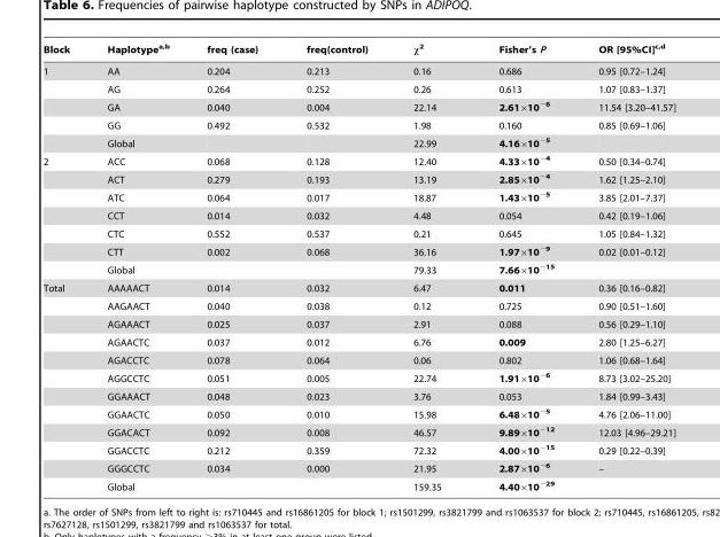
<table><thead><tr><td>Block</td><td>Haplotype<sup>a,b</sup></td><td>freq (case)</td><td>freq(control)</td><td>χ<sup>2</sup></td><td>Fisher’s P</td><td>OR [95%CI]<sup>c,d</sup></td></tr></thead><tbody><tr><td rowspan="5">1</td><td>AA</td><td>0.204</td><td>0.213</td><td>0.16</td><td>0.686</td><td>0.95 [0.72–1.24]</td></tr><tr><td>AG</td><td>0.264</td><td>0.252</td><td>0.26</td><td>0.613</td><td>1.07 [0.83–1.37]</td></tr><tr><td>GA</td><td>0.040</td><td>0.004</td><td>22.14</td><td>2.61×10<sup>−6</sup></td><td>11.54 [3.20–41.57]</td></tr><tr><td>GG</td><td>0.492</td><td>0.532</td><td>1.98</td><td>0.160</td><td>0.85 [0.69–1.06]</td></tr><tr><td>Global</td><td></td><td></td><td>22.99</td><td>4.16×10<sup>−5</sup></td><td></td></tr><tr><td rowspan="7">2</td><td>ACC</td><td>0.068</td><td>0.128</td><td>12.40</td><td>4.33×10<sup>−4</sup></td><td>0.50 [0.34–0.74]</td></tr><tr><td>ACT</td><td>0.279</td><td>0.193</td><td>13.19</td><td>2.85×10<sup>−4</sup></td><td>1.62 [1.25–2.10]</td></tr><tr><td>ATC</td><td>0.064</td><td>0.017</td><td>18.87</td><td>1.43×10<sup>−5</sup></td><td>3.85 [2.01–7.37]</td></tr><tr><td>CCT</td><td>0.014</td><td>0.032</td><td>4.48</td><td>0.054</td><td>0.42 [0.19–1.06]</td></tr><tr><td>CTC</td><td>0.552</td><td>0.537</td><td>0.21</td><td>0.645</td><td>1.05 [0.84–1.32]</td></tr><tr><td>CTT</td><td>0.002</td><td>0.068</td><td>36.16</td><td>1.97×10<sup>−9</sup></td><td>0.02 [0.01–0.12]</td></tr><tr><td>Global</td><td></td><td></td><td>79.33</td><td>7.66×10<sup>−15</sup></td><td></td></tr><tr><td rowspan="12">Total</td><td>AAAAACT</td><td>0.014</td><td>0.032</td><td>6.47</td><td>0.011</td><td>0.36 [0.16–0.82]</td></tr><tr><td>AAGAACT</td><td>0.040</td><td>0.038</td><td>0.12</td><td>0.725</td><td>0.90 [0.51–1.60]</td></tr><tr><td>AGAAACT</td><td>0.025</td><td>0.037</td><td>2.91</td><td>0.088</td><td>0.56 [0.29–1.10]</td></tr><tr><td>AGAACTC</td><td>0.037</td><td>0.012</td><td>6.76</td><td>0.009</td><td>2.80 [1.25–6.27]</td></tr><tr><td>AGACCTC</td><td>0.078</td><td>0.064</td><td>0.06</td><td>0.802</td><td>1.06 [0.68–1.64]</td></tr><tr><td>AGGCCTC</td><td>0.051</td><td>0.005</td><td>22.74</td><td>1.91×10<sup>−6</sup></td><td>8.73 [3.02–25.20]</td></tr><tr><td>GGAAACT</td><td>0.048</td><td>0.023</td><td>3.76</td><td>0.053</td><td>1.84 [0.99–3.43]</td></tr><tr><td>GGAACTC</td><td>0.050</td><td>0.010</td><td>15.98</td><td>6.48×10<sup>−5</sup></td><td>4.76 [2.06–11.00]</td></tr><tr><td>GGACACT</td><td>0.092</td><td>0.008</td><td>46.57</td><td>9.89×10<sup>−12</sup></td><td>12.03 [4.96–29.21]</td></tr><tr><td>GGACCTC</td><td>0.212</td><td>0.359</td><td>72.32</td><td>4.00×10<sup>−15</sup></td><td>0.29 [0.22–0.39]</td></tr><tr><td>GGGCCTC</td><td>0.034</td><td>0.000</td><td>21.95</td><td>2.87×10<sup>−6</sup></td><td>–</td></tr><tr><td>Global</td><td></td><td></td><td>159.35</td><td>4.40×10<sup>−29</sup></td><td></td></tr></tbody></table>